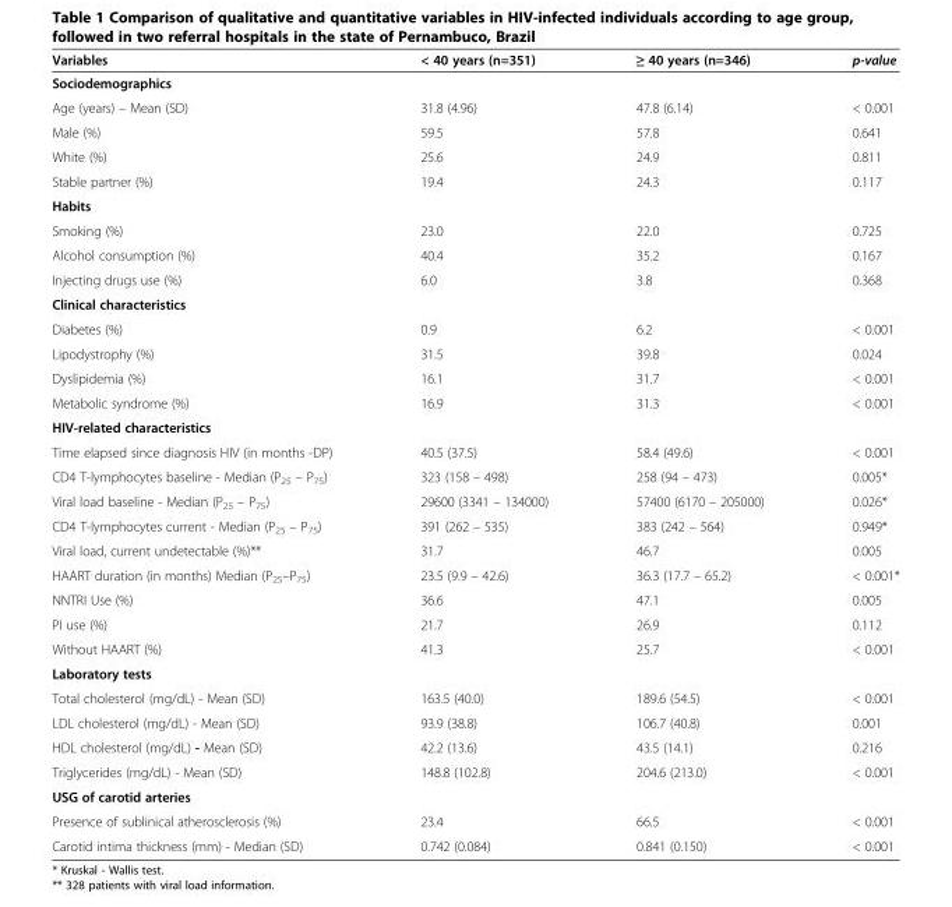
<table><thead><tr><td>Variables</td><td>&lt; 40 years (n=351)</td><td>≥ 40 years (n=346)</td><td>p-value</td></tr></thead><tbody><tr><td colspan="4">Sociodemographics</td></tr><tr><td>Age (years) – Mean (SD)</td><td>31.8 (4.96)</td><td>47.8 (6.14)</td><td>&lt; 0.001</td></tr><tr><td>Male (%)</td><td>59.5</td><td>57.8</td><td>0.641</td></tr><tr><td>White (%)</td><td>25.6</td><td>24.9</td><td>0.811</td></tr><tr><td>Stable partner (%)</td><td>19.4</td><td>24.3</td><td>0.117</td></tr><tr><td colspan="4">Habits</td></tr><tr><td>Smoking (%)</td><td>23.0</td><td>22.0</td><td>0.725</td></tr><tr><td>Alcohol consumption (%)</td><td>40.4</td><td>35.2</td><td>0.167</td></tr><tr><td>Injecting drugs use (%)</td><td>6.0</td><td>3.8</td><td>0.368</td></tr><tr><td colspan="4">Clinical characteristics</td></tr><tr><td>Diabetes (%)</td><td>0.9</td><td>6.2</td><td>&lt; 0.001</td></tr><tr><td>Lipodystrophy (%)</td><td>31.5</td><td>39.8</td><td>0.024</td></tr><tr><td>Dyslipidemia (%)</td><td>16.1</td><td>31.7</td><td>&lt; 0.001</td></tr><tr><td>Metabolic syndrome (%)</td><td>16.9</td><td>31.3</td><td>&lt; 0.001</td></tr><tr><td colspan="4">HIV-related characteristics</td></tr><tr><td>Time elapsed since diagnosis HIV (in months -DP)</td><td>40.5 (37.5)</td><td>58.4 (49.6)</td><td>&lt; 0.001</td></tr><tr><td>CD4 T-lymphocytes baseline - Median (P<sub>25</sub> – P<sub>75</sub>)</td><td>323 (158 – 498)</td><td>258 (94 – 473)</td><td>0.005*</td></tr><tr><td>Viral load baseline - Median (P<sub>25</sub> – P<sub>75</sub>)</td><td>29600 (3341 – 134000)</td><td>57400 (6170 – 205000)</td><td>0.026*</td></tr><tr><td>CD4 T-lymphocytes current - Median (P<sub>25</sub> – P<sub>75</sub>)</td><td>391 (262 – 535)</td><td>383 (242 – 564)</td><td>0.949*</td></tr><tr><td>Viral load, current undetectable (%)**</td><td>31.7</td><td>46.7</td><td>0.005</td></tr><tr><td>HAART duration (in months) Median (P<sub>25</sub>–P<sub>75</sub>)</td><td>23.5 (9.9 – 42.6)</td><td>36.3 (17.7 – 65.2)</td><td>&lt; 0.001*</td></tr><tr><td>NNTRI Use (%)</td><td>36.6</td><td>47.1</td><td>0.005</td></tr><tr><td>PI use (%)</td><td>21.7</td><td>26.9</td><td>0.112</td></tr><tr><td>Without HAART (%)</td><td>41.3</td><td>25.7</td><td>&lt; 0.001</td></tr><tr><td colspan="4">Laboratory tests</td></tr><tr><td>Total cholesterol (mg/dL) - Mean (SD)</td><td>163.5 (40.0)</td><td>189.6 (54.5)</td><td>&lt; 0.001</td></tr><tr><td>LDL cholesterol (mg/dL) - Mean (SD)</td><td>93.9 (38.8)</td><td>106.7 (40.8)</td><td>0.001</td></tr><tr><td>HDL cholesterol (mg/dL) - Mean (SD)</td><td>42.2 (13.6)</td><td>43.5 (14.1)</td><td>0.216</td></tr><tr><td>Triglycerides (mg/dL) - Mean (SD)</td><td>148.8 (102.8)</td><td>204.6 (213.0)</td><td>&lt; 0.001</td></tr><tr><td colspan="4">USG of carotid arteries</td></tr><tr><td>Presence of sublinical atherosclerosis (%)</td><td>23.4</td><td>66.5</td><td>&lt; 0.001</td></tr><tr><td>Carotid intima thickness (mm) - Median (SD)</td><td>0.742 (0.084)</td><td>0.841 (0.150)</td><td>&lt; 0.001</td></tr></tbody></table>